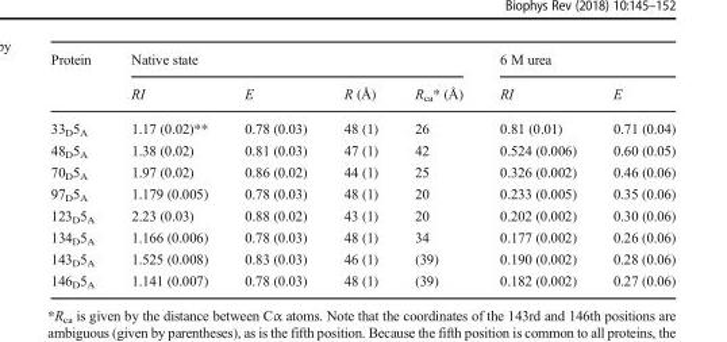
<table><thead><tr><td rowspan="2">Protein</td><td colspan="4">Native state</td><td colspan="2">6 M urea</td></tr><tr><td>RI</td><td>E</td><td>R (Å)</td><td>R<sub>ca</sub>* (Å)</td><td>RI</td><td>E</td></tr></thead><tbody><tr><td>33<sub>D</sub>5<sub>A</sub></td><td>1.17 (0.02)**</td><td>0.78 (0.03)</td><td>48 (1)</td><td>26</td><td>0.81 (0.01)</td><td>0.71 (0.04)</td></tr><tr><td>48<sub>D</sub>5<sub>A</sub></td><td>1.38 (0.02)</td><td>0.81 (0.03)</td><td>47 (1)</td><td>42</td><td>0.524 (0.006)</td><td>0.60 (0.05)</td></tr><tr><td>70<sub>D</sub>5<sub>A</sub></td><td>1.97 (0.02)</td><td>0.86 (0.02)</td><td>44 (1)</td><td>25</td><td>0.326 (0.002)</td><td>0.46 (0.06)</td></tr><tr><td>97<sub>D</sub>5<sub>A</sub></td><td>1.179 (0.005)</td><td>0.78 (0.03)</td><td>48 (1)</td><td>20</td><td>0.233 (0.005)</td><td>0.35 (0.06)</td></tr><tr><td>123<sub>D</sub>5<sub>A</sub></td><td>2.23 (0.03)</td><td>0.88 (0.02)</td><td>43 (1)</td><td>20</td><td>0.202 (0.002)</td><td>0.30 (0.06)</td></tr><tr><td>134<sub>D</sub>5<sub>A</sub></td><td>1.166 (0.006)</td><td>0.78 (0.03)</td><td>48 (1)</td><td>34</td><td>0.177 (0.002)</td><td>0.26 (0.06)</td></tr><tr><td>143<sub>D</sub>5<sub>A</sub></td><td>1.525 (0.008)</td><td>0.83 (0.03)</td><td>46 (1)</td><td>(39)</td><td>0.190 (0.002)</td><td>0.28 (0.06)</td></tr><tr><td>146<sub>D</sub>5<sub>A</sub></td><td>1.141 (0.007)</td><td>0.78 (0.03)</td><td>48 (1)</td><td>(39)</td><td>0.182 (0.002)</td><td>0.27 (0.06)</td></tr></tbody></table>